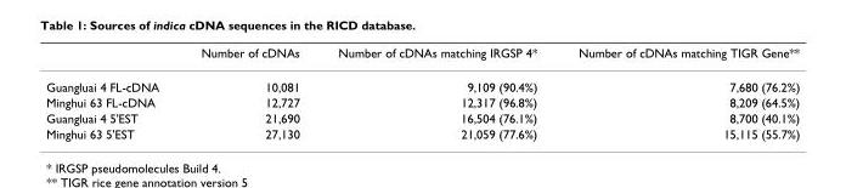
<table><thead><tr><td></td><td>Number of cDNAs</td><td>Number of cDNAs matching IRGSP 4*</td><td>Number of cDNAs matching TIGR Gene**</td></tr></thead><tbody><tr><td>Guangluai 4 FL-cDNA</td><td>10,081</td><td>9,109 (90.4%)</td><td>7,680 (76.2%)</td></tr><tr><td>Minghui 63 FL-cDNA</td><td>12,727</td><td>12,317 (96.8%)</td><td>8,209 (64.5%)</td></tr><tr><td>Guangluai 4 5&#x27;EST</td><td>21,690</td><td>16,504 (76.1%)</td><td>8,700 (40.1%)</td></tr><tr><td>Minghui 63 5&#x27;EST</td><td>27,130</td><td>21,059 (77.6%)</td><td>15,115 (55.7%)</td></tr></tbody></table>